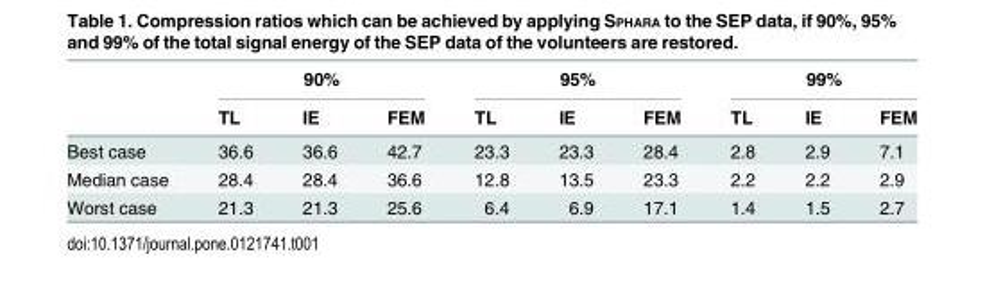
<table><thead><tr><td rowspan="2"></td><td colspan="3">90%</td><td colspan="3">95%</td><td colspan="3">99%</td></tr><tr><td>TL</td><td>IE</td><td>FEM</td><td>TL</td><td>IE</td><td>FEM</td><td>TL</td><td>IE</td><td>FEM</td></tr></thead><tbody><tr><td>Best case</td><td>36.6</td><td>36.6</td><td>42.7</td><td>23.3</td><td>23.3</td><td>28.4</td><td>2.8</td><td>2.9</td><td>7.1</td></tr><tr><td>Median case</td><td>28.4</td><td>28.4</td><td>36.6</td><td>12.8</td><td>13.5</td><td>23.3</td><td>2.2</td><td>2.2</td><td>2.9</td></tr><tr><td>Worst case</td><td>21.3</td><td>21.3</td><td>25.6</td><td>6.4</td><td>6.9</td><td>17.1</td><td>1.4</td><td>1.5</td><td>2.7</td></tr></tbody></table>